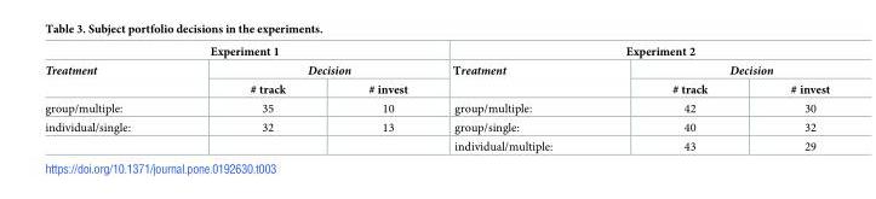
<table><thead><tr><td colspan="3">Experiment 1</td><td colspan="3">Experiment 2</td></tr><tr><td rowspan="2">Treatment</td><td colspan="2">Decision</td><td rowspan="2">Treatment</td><td colspan="2">Decision</td></tr><tr><td># track</td><td># invest</td><td># track</td><td># invest</td></tr></thead><tbody><tr><td>group/multiple:</td><td>35</td><td>10</td><td>group/multiple:</td><td>42</td><td>30</td></tr><tr><td rowspan="2">individual/single:</td><td>32</td><td>13</td><td>group/single:</td><td>40</td><td>32</td></tr><tr><td></td><td></td><td>individual/multiple:</td><td>43</td><td>29</td></tr></tbody></table>